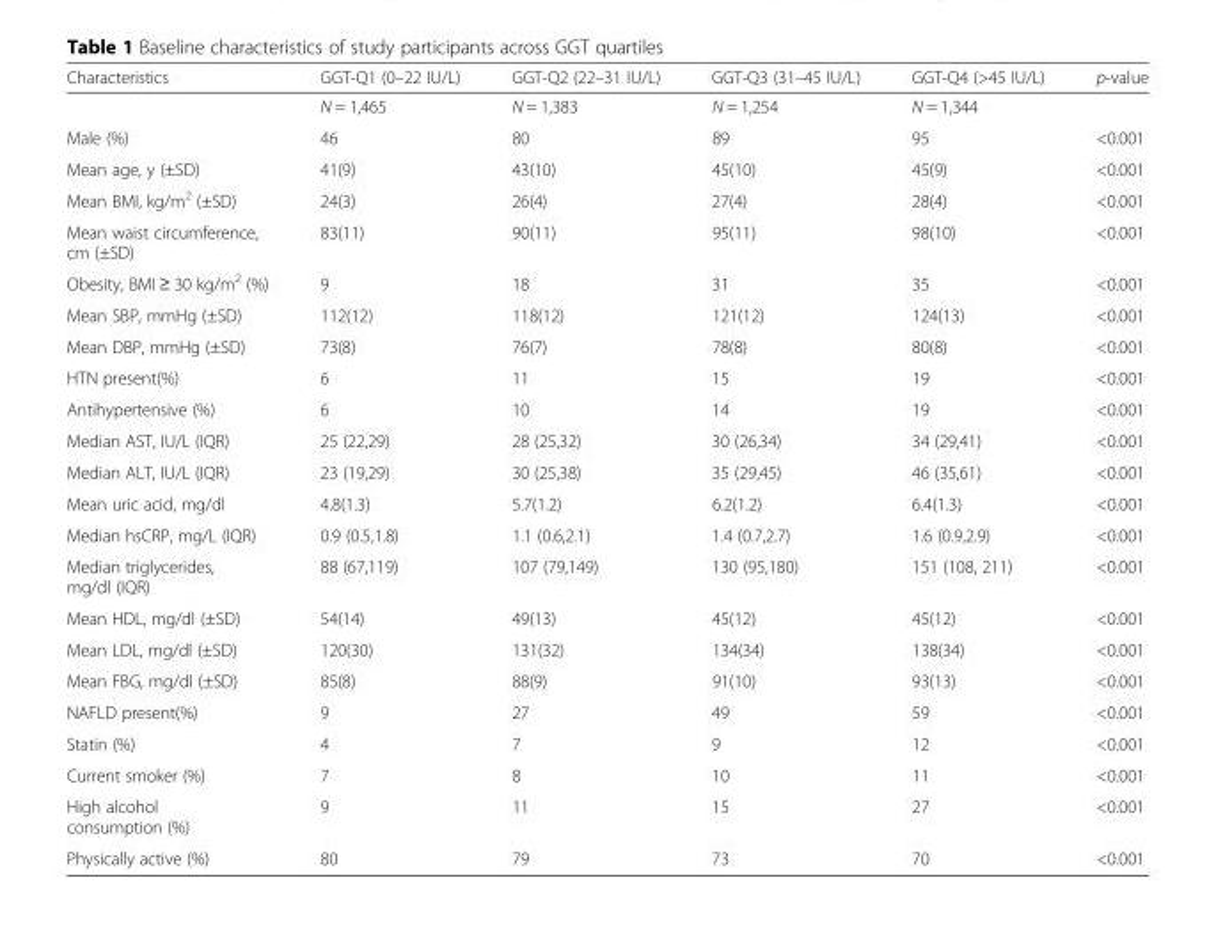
<table><thead><tr><td>Characteristics</td><td>GGT-Q1 (0–22 IU/L)</td><td>GGT-Q2 (22–31 IU/L)</td><td>GGT-Q3 (31–45 IU/L)</td><td>GGT-Q4 (&gt;45 IU/L)</td><td>p-value</td></tr></thead><tbody><tr><td></td><td>N = 1,465</td><td>N = 1,383</td><td>N = 1,254</td><td>N = 1,344</td><td></td></tr><tr><td>Male (%)</td><td>46</td><td>80</td><td>89</td><td>95</td><td>&lt;0.001</td></tr><tr><td>Mean age, y (±SD)</td><td>41(9)</td><td>43(10)</td><td>45(10)</td><td>45(9)</td><td>&lt;0.001</td></tr><tr><td>Mean BMI, kg/m<sup>2</sup> (±SD)</td><td>24(3)</td><td>26(4)</td><td>27(4)</td><td>28(4)</td><td>&lt;0.001</td></tr><tr><td>Mean waist circumference, cm (±SD)</td><td>83(11)</td><td>90(11)</td><td>95(11)</td><td>98(10)</td><td>&lt;0.001</td></tr><tr><td>Obesity, BMI ≥ 30 kg/m<sup>2</sup> (%)</td><td>9</td><td>18</td><td>31</td><td>35</td><td>&lt;0.001</td></tr><tr><td>Mean SBP, mmHg (±SD)</td><td>112(12)</td><td>118(12)</td><td>121(12)</td><td>124(13)</td><td>&lt;0.001</td></tr><tr><td>Mean DBP, mmHg (±SD)</td><td>73(8)</td><td>76(7)</td><td>78(8)</td><td>80(8)</td><td>&lt;0.001</td></tr><tr><td>HTN present(%)</td><td>6</td><td>11</td><td>15</td><td>19</td><td>&lt;0.001</td></tr><tr><td>Antihypertensive (%)</td><td>6</td><td>10</td><td>14</td><td>19</td><td>&lt;0.001</td></tr><tr><td>Median AST, IU/L (IQR)</td><td>25 (22,29)</td><td>28 (25,32)</td><td>30 (26,34)</td><td>34 (29,41)</td><td>&lt;0.001</td></tr><tr><td>Median ALT, IU/L (IQR)</td><td>23 (19,29)</td><td>30 (25,38)</td><td>35 (29,45)</td><td>46 (35,61)</td><td>&lt;0.001</td></tr><tr><td>Mean uric acid, mg/dl</td><td>4.8(1.3)</td><td>5.7(1.2)</td><td>6.2(1.2)</td><td>6.4(1.3)</td><td>&lt;0.001</td></tr><tr><td>Median hsCRP, mg/L (IQR)</td><td>0.9 (0.5,1.8)</td><td>1.1 (0.6,2.1)</td><td>1.4 (0.7,2.7)</td><td>1.6 (0.9,2.9)</td><td>&lt;0.001</td></tr><tr><td>Median triglycerides, mg/dl (IQR)</td><td>88 (67,119)</td><td>107 (79,149)</td><td>130 (95,180)</td><td>151 (108, 211)</td><td>&lt;0.001</td></tr><tr><td>Mean HDL, mg/dl (±SD)</td><td>54(14)</td><td>49(13)</td><td>45(12)</td><td>45(12)</td><td>&lt;0.001</td></tr><tr><td>Mean LDL, mg/dl (±SD)</td><td>120(30)</td><td>131(32)</td><td>134(34)</td><td>138(34)</td><td>&lt;0.001</td></tr><tr><td>Mean FBG, mg/dl (±SD)</td><td>85(8)</td><td>88(9)</td><td>91(10)</td><td>93(13)</td><td>&lt;0.001</td></tr><tr><td>NAFLD present(%)</td><td>9</td><td>27</td><td>49</td><td>59</td><td>&lt;0.001</td></tr><tr><td>Statin (%)</td><td>4</td><td>7</td><td>9</td><td>12</td><td>&lt;0.001</td></tr><tr><td>Current smoker (%)</td><td>7</td><td>8</td><td>10</td><td>11</td><td>&lt;0.001</td></tr><tr><td>High alcohol consumption (%)</td><td>9</td><td>11</td><td>15</td><td>27</td><td>&lt;0.001</td></tr><tr><td>Physically active (%)</td><td>80</td><td>79</td><td>73</td><td>70</td><td>&lt;0.001</td></tr></tbody></table>